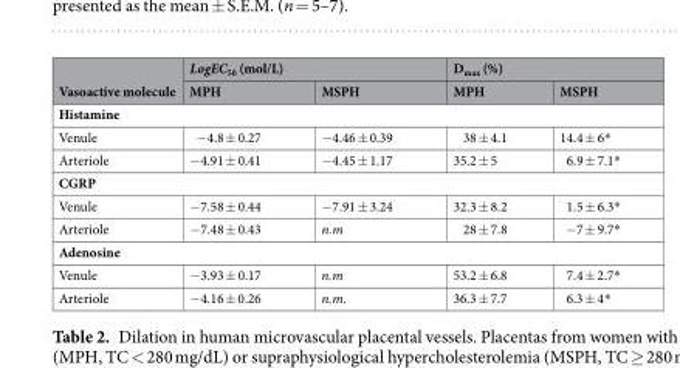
<table><thead><tr><td rowspan="2">Vasoactive molecule</td><td colspan="2">LogEC<sub>50</sub> (mol/L)</td><td colspan="2">D<sub>max</sub> (%)</td></tr><tr><td>MPH</td><td>MSPH</td><td>MPH</td><td>MSPH</td></tr></thead><tbody><tr><td colspan="5">Histamine</td></tr><tr><td>Venule</td><td>−4.8 ± 0.27</td><td>−4.46 ± 0.39</td><td>38 ± 4.1</td><td>14.4 ± 6*</td></tr><tr><td>Arteriole</td><td>−4.91 ± 0.41</td><td>−4.45 ± 1.17</td><td>35.2 ± 5</td><td>6.9 ± 7.1*</td></tr><tr><td colspan="5">CGRP</td></tr><tr><td>Venule</td><td>−7.58 ± 0.44</td><td>−7.91 ± 3.24</td><td>32.3 ± 8.2</td><td>1.5 ± 6.3*</td></tr><tr><td>Arteriole</td><td>−7.48 ± 0.43</td><td>n.m</td><td>28 ± 7.8</td><td>−7 ± 9.7*</td></tr><tr><td colspan="5">Adenosine</td></tr><tr><td>Venule</td><td>−3.93 ± 0.17</td><td>n.m</td><td>53.2 ± 6.8</td><td>7.4 ± 2.7*</td></tr><tr><td>Arteriole</td><td>−4.16 ± 0.26</td><td>n.m.</td><td>36.3 ± 7.7</td><td>6.3 ± 4*</td></tr></tbody></table>